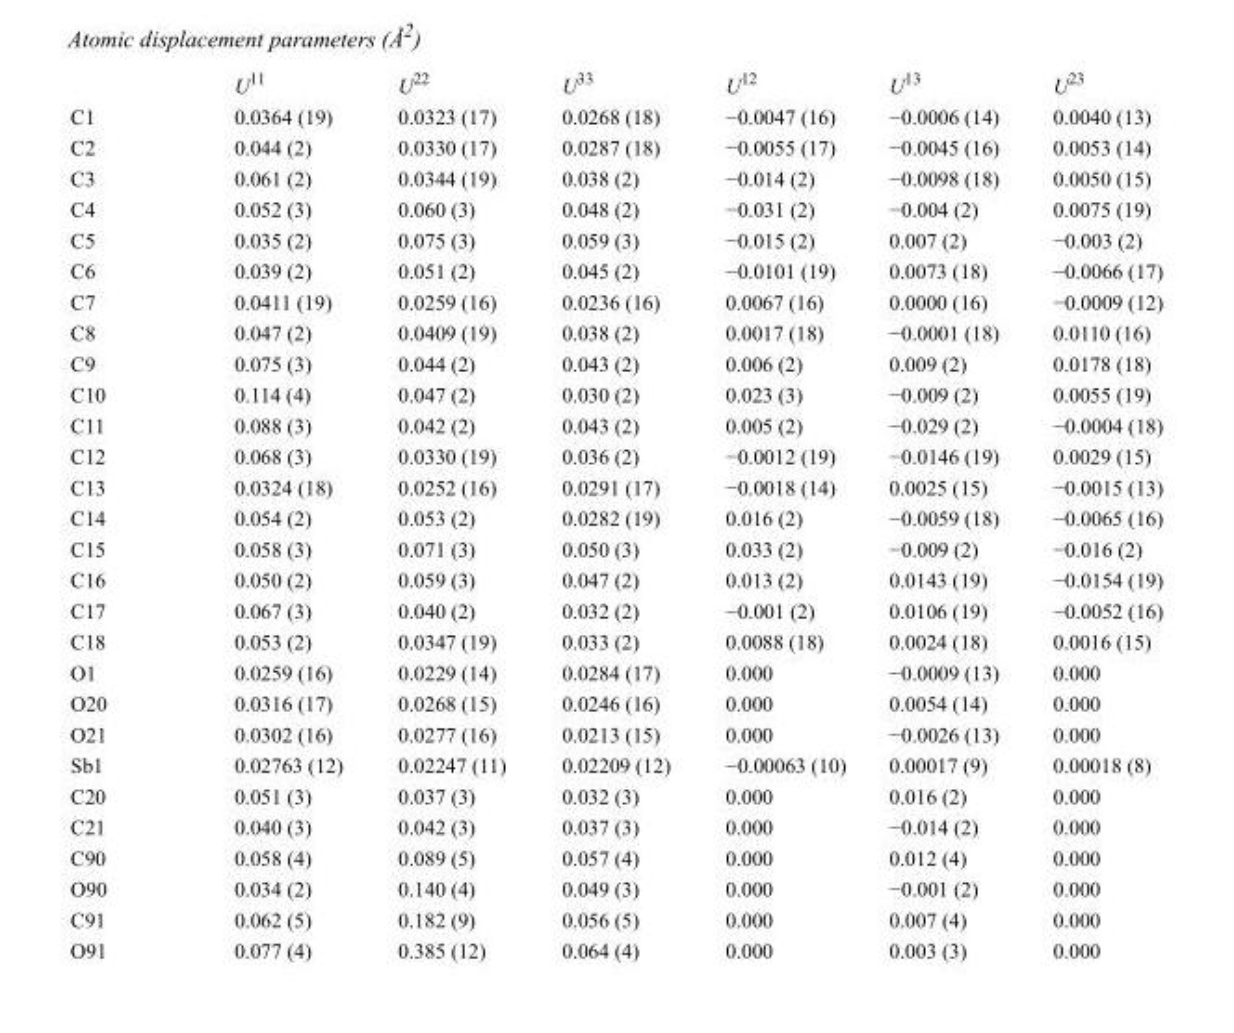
<table><thead><tr><td></td><td>U<sup>11</sup></td><td>U<sup>22</sup></td><td>U<sup>33</sup></td><td>U<sup>12</sup></td><td>U<sup>13</sup></td><td>U<sup>23</sup></td></tr></thead><tbody><tr><td>C1</td><td>0.0364 (19)</td><td>0.0323 (17)</td><td>0.0268 (18)</td><td>−0.0047 (16)</td><td>−0.0006 (14)</td><td>0.0040 (13)</td></tr><tr><td>C2</td><td>0.044 (2)</td><td>0.0330 (17)</td><td>0.0287 (18)</td><td>−0.0055 (17)</td><td>−0.0045 (16)</td><td>0.0053 (14)</td></tr><tr><td>C3</td><td>0.061 (2)</td><td>0.0344 (19)</td><td>0.038 (2)</td><td>−0.014 (2)</td><td>−0.0098 (18)</td><td>0.0050 (15)</td></tr><tr><td>C4</td><td>0.052 (3)</td><td>0.060 (3)</td><td>0.048 (2)</td><td>−0.031 (2)</td><td>−0.004 (2)</td><td>0.0075 (19)</td></tr><tr><td>C5</td><td>0.035 (2)</td><td>0.075 (3)</td><td>0.059 (3)</td><td>−0.015 (2)</td><td>0.007 (2)</td><td>−0.003 (2)</td></tr><tr><td>C6</td><td>0.039 (2)</td><td>0.051 (2)</td><td>0.045 (2)</td><td>−0.0101 (19)</td><td>0.0073 (18)</td><td>−0.0066 (17)</td></tr><tr><td>C7</td><td>0.0411 (19)</td><td>0.0259 (16)</td><td>0.0236 (16)</td><td>0.0067 (16)</td><td>0.0000 (16)</td><td>−0.0009 (12)</td></tr><tr><td>C8</td><td>0.047 (2)</td><td>0.0409 (19)</td><td>0.038 (2)</td><td>0.0017 (18)</td><td>−0.0001 (18)</td><td>0.0110 (16)</td></tr><tr><td>C9</td><td>0.075 (3)</td><td>0.044 (2)</td><td>0.043 (2)</td><td>0.006 (2)</td><td>0.009 (2)</td><td>0.0178 (18)</td></tr><tr><td>C10</td><td>0.114 (4)</td><td>0.047 (2)</td><td>0.030 (2)</td><td>0.023 (3)</td><td>−0.009 (2)</td><td>0.0055 (19)</td></tr><tr><td>C11</td><td>0.088 (3)</td><td>0.042 (2)</td><td>0.043 (2)</td><td>0.005 (2)</td><td>−0.029 (2)</td><td>−0.0004 (18)</td></tr><tr><td>C12</td><td>0.068 (3)</td><td>0.0330 (19)</td><td>0.036 (2)</td><td>−0.0012 (19)</td><td>−0.0146 (19)</td><td>0.0029 (15)</td></tr><tr><td>C13</td><td>0.0324 (18)</td><td>0.0252 (16)</td><td>0.0291 (17)</td><td>−0.0018 (14)</td><td>0.0025 (15)</td><td>−0.0015 (13)</td></tr><tr><td>C14</td><td>0.054 (2)</td><td>0.053 (2)</td><td>0.0282 (19)</td><td>0.016 (2)</td><td>−0.0059 (18)</td><td>−0.0065 (16)</td></tr><tr><td>C15</td><td>0.058 (3)</td><td>0.071 (3)</td><td>0.050 (3)</td><td>0.033 (2)</td><td>−0.009 (2)</td><td>−0.016 (2)</td></tr><tr><td>C16</td><td>0.050 (2)</td><td>0.059 (3)</td><td>0.047 (2)</td><td>0.013 (2)</td><td>0.0143 (19)</td><td>−0.0154 (19)</td></tr><tr><td>C17</td><td>0.067 (3)</td><td>0.040 (2)</td><td>0.032 (2)</td><td>−0.001 (2)</td><td>0.0106 (19)</td><td>−0.0052 (16)</td></tr><tr><td>C18</td><td>0.053 (2)</td><td>0.0347 (19)</td><td>0.033 (2)</td><td>0.0088 (18)</td><td>0.0024 (18)</td><td>0.0016 (15)</td></tr><tr><td>O1</td><td>0.0259 (16)</td><td>0.0229 (14)</td><td>0.0284 (17)</td><td>0.000</td><td>−0.0009 (13)</td><td>0.000</td></tr><tr><td>O20</td><td>0.0316 (17)</td><td>0.0268 (15)</td><td>0.0246 (16)</td><td>0.000</td><td>0.0054 (14)</td><td>0.000</td></tr><tr><td>O21</td><td>0.0302 (16)</td><td>0.0277 (16)</td><td>0.0213 (15)</td><td>0.000</td><td>−0.0026 (13)</td><td>0.000</td></tr><tr><td>Sb1</td><td>0.02763 (12)</td><td>0.02247 (11)</td><td>0.02209 (12)</td><td>−0.00063 (10)</td><td>0.00017 (9)</td><td>0.00018 (8)</td></tr><tr><td>C20</td><td>0.051 (3)</td><td>0.037 (3)</td><td>0.032 (3)</td><td>0.000</td><td>0.016 (2)</td><td>0.000</td></tr><tr><td>C21</td><td>0.040 (3)</td><td>0.042 (3)</td><td>0.037 (3)</td><td>0.000</td><td>−0.014 (2)</td><td>0.000</td></tr><tr><td>C90</td><td>0.058 (4)</td><td>0.089 (5)</td><td>0.057 (4)</td><td>0.000</td><td>0.012 (4)</td><td>0.000</td></tr><tr><td>O90</td><td>0.034 (2)</td><td>0.140 (4)</td><td>0.049 (3)</td><td>0.000</td><td>−0.001 (2)</td><td>0.000</td></tr><tr><td>C91</td><td>0.062 (5)</td><td>0.182 (9)</td><td>0.056 (5)</td><td>0.000</td><td>0.007 (4)</td><td>0.000</td></tr><tr><td>O91</td><td>0.077 (4)</td><td>0.385 (12)</td><td>0.064 (4)</td><td>0.000</td><td>0.003 (3)</td><td>0.000</td></tr></tbody></table>